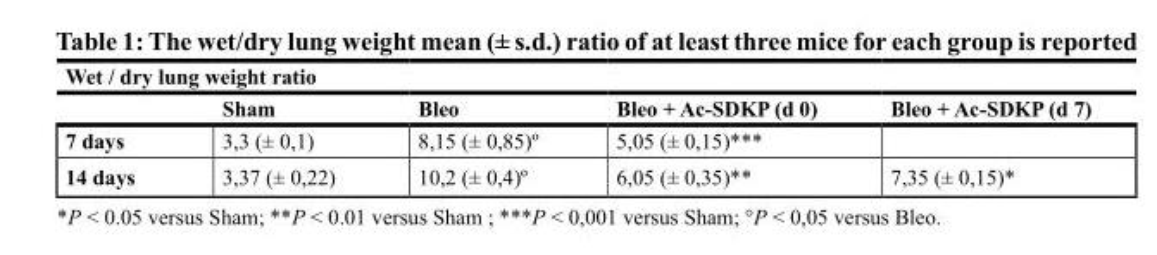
<table><thead><tr><td colspan="5">Wet / dry lung weight ratio</td></tr><tr><td></td><td>Sham</td><td>Bleo</td><td>Bleo + Ac-SDKP (d 0)</td><td>Bleo + Ac-SDKP (d 7)</td></tr></thead><tbody><tr><td>7 days</td><td>3,3 (± 0,1)</td><td>8,15 (± 0,85)º</td><td>5,05 (± 0,15)***</td><td></td></tr><tr><td>14 days</td><td>3,37 (± 0,22)</td><td>10,2 (± 0,4)º</td><td>6,05 (± 0,35)**</td><td>7,35 (± 0,15)*</td></tr></tbody></table>